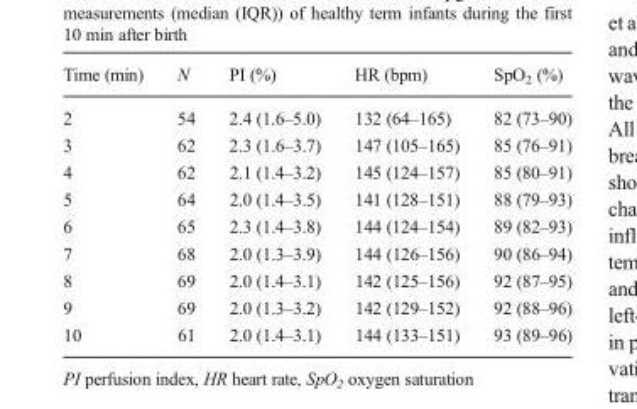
<table><thead><tr><td>Time (min)</td><td>N</td><td>PI (%)</td><td>HR (bpm)</td><td>SpO<sub>2</sub> (%)</td></tr></thead><tbody><tr><td>2</td><td>54</td><td>2.4 (1.6–5.0)</td><td>132 (64–165)</td><td>82 (73–90)</td></tr><tr><td>3</td><td>62</td><td>2.3 (1.6–3.7)</td><td>147 (105–165)</td><td>85 (76–91)</td></tr><tr><td>4</td><td>62</td><td>2.1 (1.4–3.2)</td><td>145 (124–157)</td><td>85 (80–91)</td></tr><tr><td>5</td><td>64</td><td>2.0 (1.4–3.5)</td><td>141 (128–151)</td><td>88 (79–93)</td></tr><tr><td>6</td><td>65</td><td>2.3 (1.4–3.8)</td><td>144 (124–154)</td><td>89 (82–93)</td></tr><tr><td>7</td><td>68</td><td>2.0 (1.3–3.9)</td><td>144 (126–156)</td><td>90 (86–94)</td></tr><tr><td>8</td><td>69</td><td>2.0 (1.4–3.1)</td><td>142 (125–156)</td><td>92 (87–95)</td></tr><tr><td>9</td><td>69</td><td>2.0 (1.3–3.2)</td><td>142 (129–152)</td><td>92 (88–96)</td></tr><tr><td>10</td><td>61</td><td>2.0 (1.4–3.1)</td><td>144 (133–151)</td><td>93 (89–96)</td></tr></tbody></table>